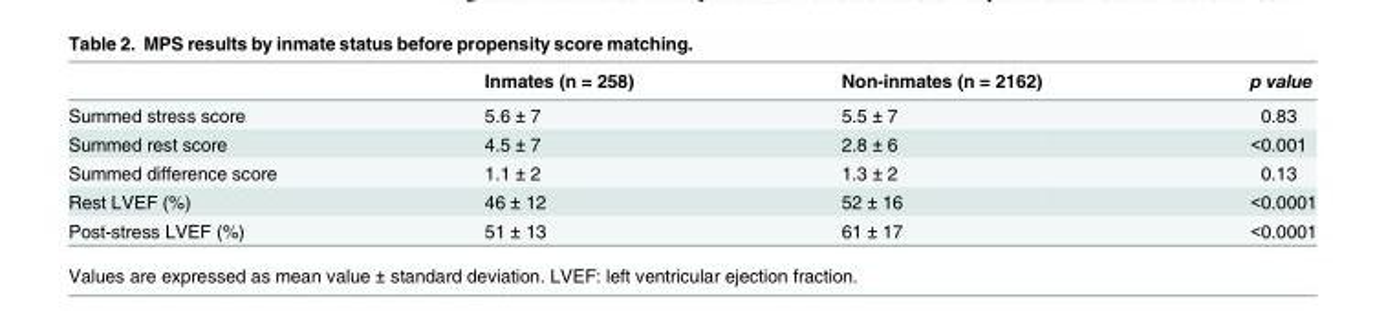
<table><thead><tr><td></td><td>Inmates (n = 258)</td><td>Non-inmates (n = 2162)</td><td>p value</td></tr></thead><tbody><tr><td>Summed stress score</td><td>5.6 ± 7</td><td>5.5 ± 7</td><td>0.83</td></tr><tr><td>Summed rest score</td><td>4.5 ± 7</td><td>2.8 ± 6</td><td>&lt;0.001</td></tr><tr><td>Summed difference score</td><td>1.1 ± 2</td><td>1.3 ± 2</td><td>0.13</td></tr><tr><td>Rest LVEF (%)</td><td>46 ± 12</td><td>52 ± 16</td><td>&lt;0.0001</td></tr><tr><td>Post-stress LVEF (%)</td><td>51 ± 13</td><td>61 ± 17</td><td>&lt;0.0001</td></tr></tbody></table>